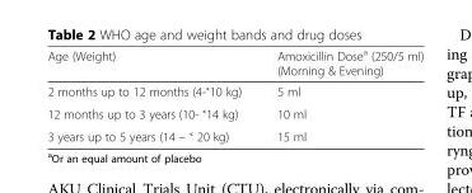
<table><thead><tr><td>Age (Weight)</td><td>Amoxicillin Dose<sup>a</sup> (250/5 ml) (Morning &amp; Evening)</td></tr></thead><tbody><tr><td>2 months up to 12 months (4-˂10 kg)</td><td>5 ml</td></tr><tr><td>12 months up to 3 years (10- ˂14 kg)</td><td>10 ml</td></tr><tr><td>3 years up to 5 years (14 – ˂ 20 kg)</td><td>15 ml</td></tr></tbody></table>